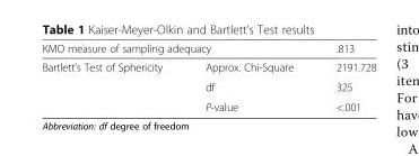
<table><thead><tr><td colspan="2">KMO measure of sampling adequacy</td><td rowspan="2">.813 2191.728</td></tr><tr><td>Bartlett’s Test of Sphericity</td><td>Approx. Chi-Square</td></tr></thead><tbody><tr><td></td><td>df</td><td>325</td></tr><tr><td></td><td>P-value</td><td>&lt;.001</td></tr></tbody></table>